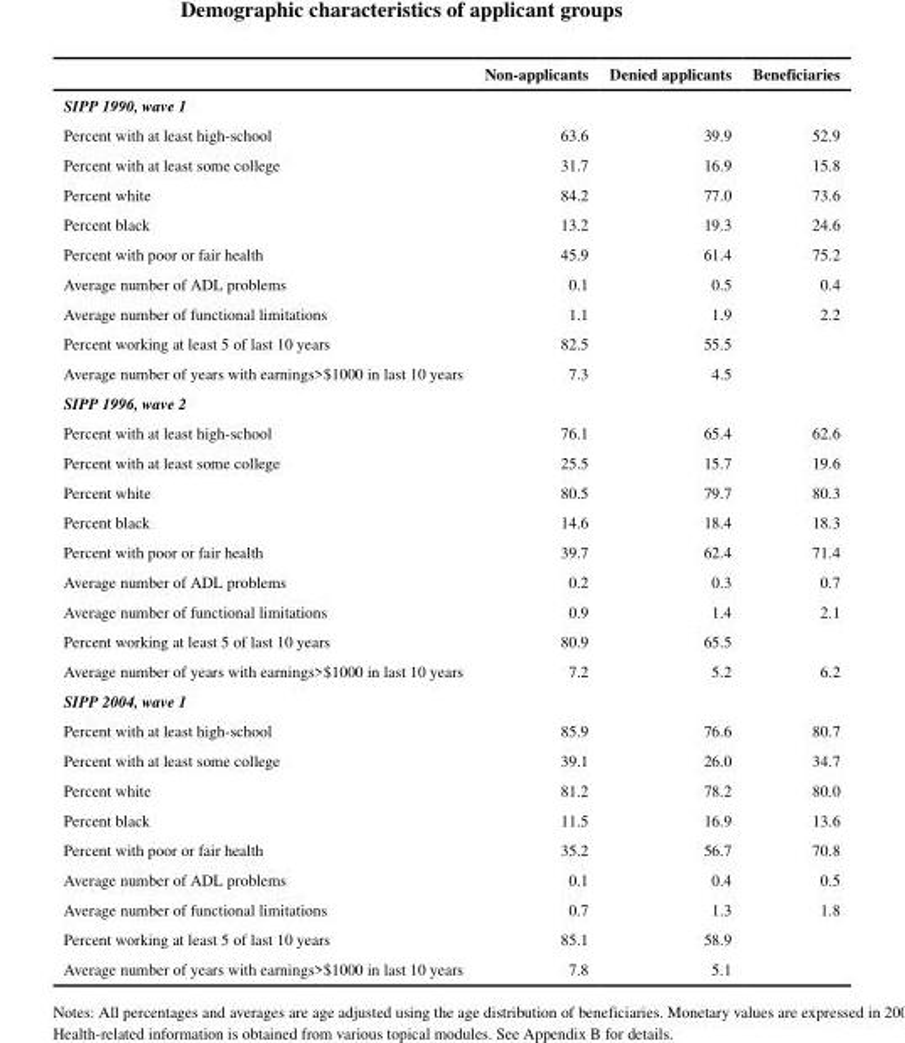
<table><thead><tr><td></td><td>Non-applicants</td><td>Denied applicants</td><td>Beneficiaries</td></tr></thead><tbody><tr><td colspan="4">SIPP 1990, wave 1</td></tr><tr><td>Percent with at least high-school</td><td>63.6</td><td>39.9</td><td>52.9</td></tr><tr><td>Percent with at least some college</td><td>31.7</td><td>16.9</td><td>15.8</td></tr><tr><td>Percent white</td><td>84.2</td><td>77.0</td><td>73.6</td></tr><tr><td>Percent black</td><td>13.2</td><td>19.3</td><td>24.6</td></tr><tr><td>Percent with poor or fair health</td><td>45.9</td><td>61.4</td><td>75.2</td></tr><tr><td>Average number of ADL problems</td><td>0.1</td><td>0.5</td><td>0.4</td></tr><tr><td>Average number of functional limitations</td><td>1.1</td><td>1.9</td><td>2.2</td></tr><tr><td>Percent working at least 5 of last 10 years</td><td>82.5</td><td>55.5</td><td></td></tr><tr><td>Average number of years with earnings&gt;$1000 in last 10 years</td><td>7.3</td><td>4.5</td><td></td></tr><tr><td colspan="4">SIPP 1996, wave 2</td></tr><tr><td>Percent with at least high-school</td><td>76.1</td><td>65.4</td><td>62.6</td></tr><tr><td>Percent with at least some college</td><td>25.5</td><td>15.7</td><td>19.6</td></tr><tr><td>Percent white</td><td>80.5</td><td>79.7</td><td>80.3</td></tr><tr><td>Percent black</td><td>14.6</td><td>18.4</td><td>18.3</td></tr><tr><td>Percent with poor or fair health</td><td>39.7</td><td>62.4</td><td>71.4</td></tr><tr><td>Average number of ADL problems</td><td>0.2</td><td>0.3</td><td>0.7</td></tr><tr><td>Average number of functional limitations</td><td>0.9</td><td>1.4</td><td>2.1</td></tr><tr><td>Percent working at least 5 of last 10 years</td><td>80.9</td><td>65.5</td><td></td></tr><tr><td>Average number of years with earnings&gt;$1000 in last 10 years</td><td>7.2</td><td>5.2</td><td>6.2</td></tr><tr><td colspan="4">SIPP 2004, wave 1</td></tr><tr><td>Percent with at least high-school</td><td>85.9</td><td>76.6</td><td>80.7</td></tr><tr><td>Percent with at least some college</td><td>39.1</td><td>26.0</td><td>34.7</td></tr><tr><td>Percent white</td><td>81.2</td><td>78.2</td><td>80.0</td></tr><tr><td>Percent black</td><td>11.5</td><td>16.9</td><td>13.6</td></tr><tr><td>Percent with poor or fair health</td><td>35.2</td><td>56.7</td><td>70.8</td></tr><tr><td>Average number of ADL problems</td><td>0.1</td><td>0.4</td><td>0.5</td></tr><tr><td>Average number of functional limitations</td><td>0.7</td><td>1.3</td><td>1.8</td></tr><tr><td>Percent working at least 5 of last 10 years</td><td>85.1</td><td>58.9</td><td></td></tr><tr><td>Average number of years with earnings&gt;$1000 in last 10 years</td><td>7.8</td><td>5.1</td><td></td></tr></tbody></table>